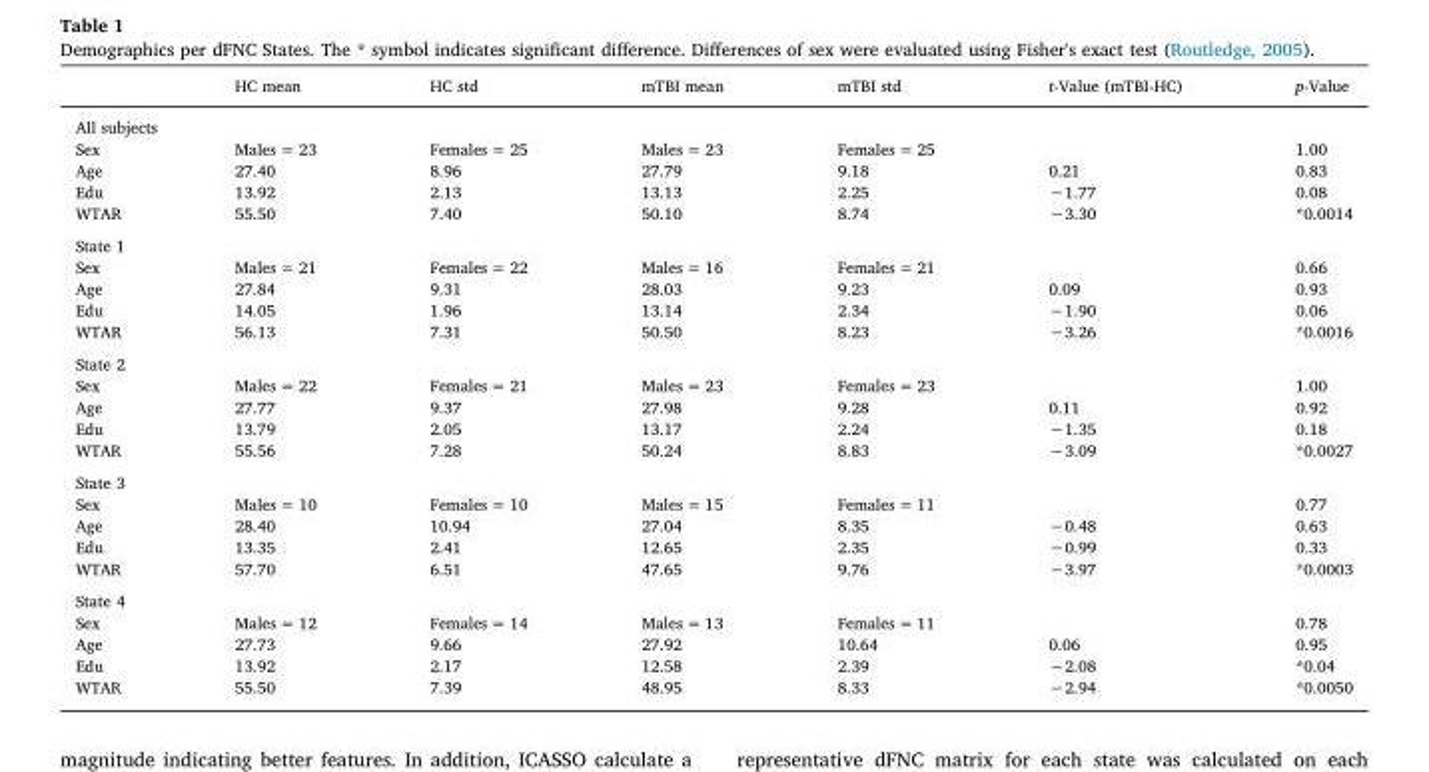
<table><thead><tr><td></td><td>HC mean</td><td>HC std</td><td>mTBI mean</td><td>mTBI std</td><td>t-Value (mTBI-HC)</td><td>p-Value</td></tr></thead><tbody><tr><td colspan="7">All subjects</td></tr><tr><td>Sex</td><td>Males = 23</td><td>Females = 25</td><td>Males = 23</td><td>Females = 25</td><td></td><td>1.00</td></tr><tr><td>Age</td><td>27.40</td><td>8.96</td><td>27.79</td><td>9.18</td><td>0.21</td><td>0.83</td></tr><tr><td>Edu</td><td>13.92</td><td>2.13</td><td>13.13</td><td>2.25</td><td>−1.77</td><td>0.08</td></tr><tr><td>WTAR</td><td>55.50</td><td>7.40</td><td>50.10</td><td>8.74</td><td>−3.30</td><td>*0.0014</td></tr><tr><td colspan="7">State 1</td></tr><tr><td>Sex</td><td>Males = 21</td><td>Females = 22</td><td>Males = 16</td><td>Females = 21</td><td></td><td>0.66</td></tr><tr><td>Age</td><td>27.84</td><td>9.31</td><td>28.03</td><td>9.23</td><td>0.09</td><td>0.93</td></tr><tr><td>Edu</td><td>14.05</td><td>1.96</td><td>13.14</td><td>2.34</td><td>−1.90</td><td>0.06</td></tr><tr><td>WTAR</td><td>56.13</td><td>7.31</td><td>50.50</td><td>8.23</td><td>−3.26</td><td>*0.0016</td></tr><tr><td colspan="7">State 2</td></tr><tr><td>Sex</td><td>Males = 22</td><td>Females = 21</td><td>Males = 23</td><td>Females = 23</td><td></td><td>1.00</td></tr><tr><td>Age</td><td>27.77</td><td>9.37</td><td>27.98</td><td>9.28</td><td>0.11</td><td>0.92</td></tr><tr><td>Edu</td><td>13.79</td><td>2.05</td><td>13.17</td><td>2.24</td><td>−1.35</td><td>0.18</td></tr><tr><td>WTAR</td><td>55.56</td><td>7.28</td><td>50.24</td><td>8.83</td><td>−3.09</td><td>*0.0027</td></tr><tr><td colspan="7">State 3</td></tr><tr><td>Sex</td><td>Males = 10</td><td>Females = 10</td><td>Males = 15</td><td>Females = 11</td><td></td><td>0.77</td></tr><tr><td>Age</td><td>28.40</td><td>10.94</td><td>27.04</td><td>8.35</td><td>−0.48</td><td>0.63</td></tr><tr><td>Edu</td><td>13.35</td><td>2.41</td><td>12.65</td><td>2.35</td><td>−0.99</td><td>0.33</td></tr><tr><td>WTAR</td><td>57.70</td><td>6.51</td><td>47.65</td><td>9.76</td><td>−3.97</td><td>*0.0003</td></tr><tr><td colspan="7">State 4</td></tr><tr><td>Sex</td><td>Males = 12</td><td>Females = 14</td><td>Males = 13</td><td>Females = 11</td><td></td><td>0.78</td></tr><tr><td>Age</td><td>27.73</td><td>9.66</td><td>27.92</td><td>10.64</td><td>0.06</td><td>0.95</td></tr><tr><td>Edu</td><td>13.92</td><td>2.17</td><td>12.58</td><td>2.39</td><td>−2.08</td><td>*0.04</td></tr><tr><td>WTAR</td><td>55.50</td><td>7.39</td><td>48.95</td><td>8.33</td><td>−2.94</td><td>*0.0050</td></tr></tbody></table>